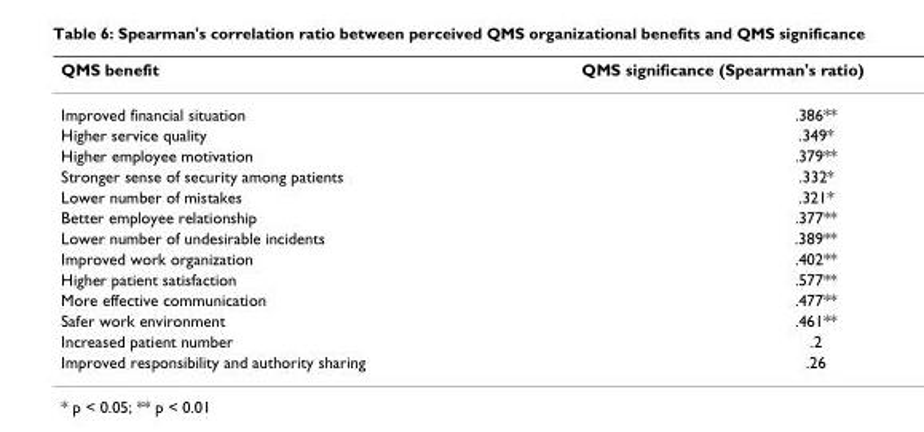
<table><thead><tr><td>QMS benefit</td><td>QMS significance (Spearman&#x27;s ratio)</td></tr></thead><tbody><tr><td>Improved financial situation</td><td>.386**</td></tr><tr><td>Higher service quality</td><td>.349*</td></tr><tr><td>Higher employee motivation</td><td>.379**</td></tr><tr><td>Stronger sense of security among patients</td><td>.332*</td></tr><tr><td>Lower number of mistakes</td><td>.321*</td></tr><tr><td>Better employee relationship</td><td>.377**</td></tr><tr><td>Lower number of undesirable incidents</td><td>.389**</td></tr><tr><td>Improved work organization</td><td>.402**</td></tr><tr><td>Higher patient satisfaction</td><td>.577**</td></tr><tr><td>More effective communication</td><td>.477**</td></tr><tr><td>Safer work environment</td><td>.461**</td></tr><tr><td>Increased patient number</td><td>.2</td></tr><tr><td>Improved responsibility and authority sharing</td><td>.26</td></tr></tbody></table>